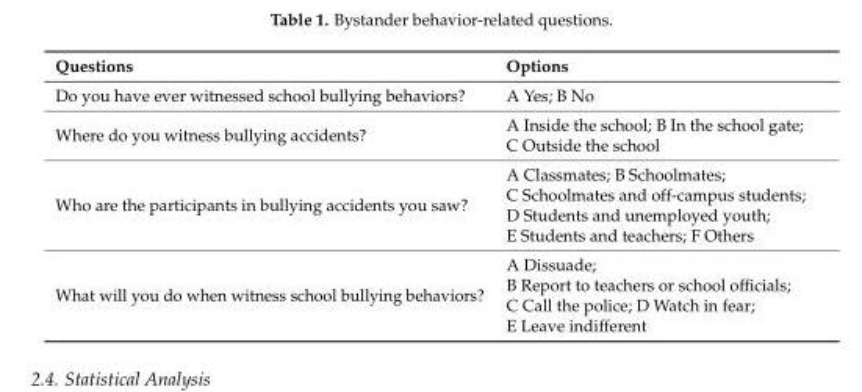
<table><thead><tr><td>Questions</td><td>Options</td></tr></thead><tbody><tr><td>Do you have ever witnessed school bullying behaviors?</td><td>A Yes; B No</td></tr><tr><td>Where do you witness bullying accidents?</td><td>A Inside the school; B In the school gate; C Outside the school</td></tr><tr><td>Who are the participants in bullying accidents you saw?</td><td>A Classmates; B Schoolmates; C Schoolmates and off-campus students; D Students and unemployed youth; E Students and teachers; F Others</td></tr><tr><td>What will you do when witness school bullying behaviors?</td><td>A Dissuade; B Report to teachers or school officials; C Call the police; D Watch in fear; E Leave indifferent</td></tr></tbody></table>